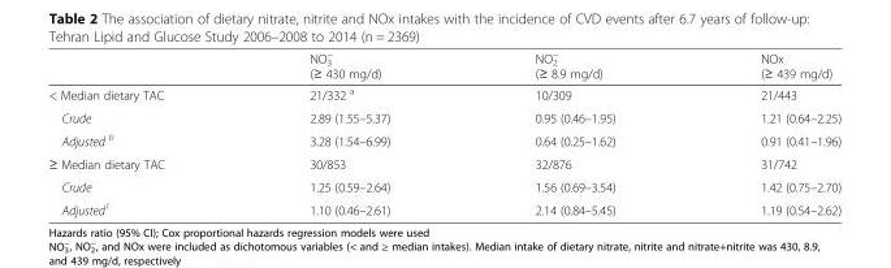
<table><thead><tr><td></td><td>NO<sub>3</sub> <sup>−</sup> (≥ 430 mg/d)</td><td>NO<sub>2</sub> <sup>−</sup> (≥ 8.9 mg/d)</td><td>NOx (≥ 439 mg/d)</td></tr></thead><tbody><tr><td>&lt; Median dietary TAC</td><td>21/332 <sup>a</sup></td><td>10/309</td><td>21/443</td></tr><tr><td>Crude</td><td>2.89 (1.55–5.37)</td><td>0.95 (0.46–1.95)</td><td>1.21 (0.64–2.25)</td></tr><tr><td>Adjusted <sup>b</sup></td><td>3.28 (1.54–6.99)</td><td>0.64 (0.25–1.62)</td><td>0.91 (0.41–1.96)</td></tr><tr><td>≥ Median dietary TAC</td><td>30/853</td><td>32/876</td><td>31/742</td></tr><tr><td>Crude</td><td>1.25 (0.59–2.64)</td><td>1.56 (0.69–3.54)</td><td>1.42 (0.75–2.70)</td></tr><tr><td>Adjusted<sup>1</sup></td><td>1.10 (0.46–2.61)</td><td>2.14 (0.84–5.45)</td><td>1.19 (0.54–2.62)</td></tr></tbody></table>